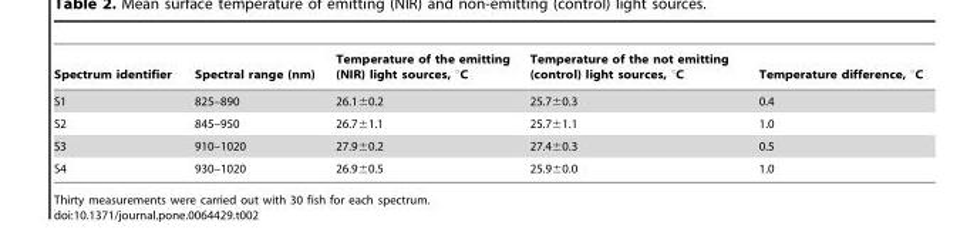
<table><thead><tr><td>Spectrum identifier</td><td>Spectral range (nm)</td><td>Temperature of the emitting (NIR) light sources, °C</td><td>Temperature of the not emitting (control) light sources, °C</td><td>Temperature difference, °C</td></tr></thead><tbody><tr><td>S1</td><td>825–890</td><td>26.1±0.2</td><td>25.7±0.3</td><td>0.4</td></tr><tr><td>S2</td><td>845–950</td><td>26.7±1.1</td><td>25.7±1.1</td><td>1.0</td></tr><tr><td>S3</td><td>910–1020</td><td>27.9±0.2</td><td>27.4±0.3</td><td>0.5</td></tr><tr><td>S4</td><td>930–1020</td><td>26.9±0.5</td><td>25.9±0.0</td><td>1.0</td></tr></tbody></table>